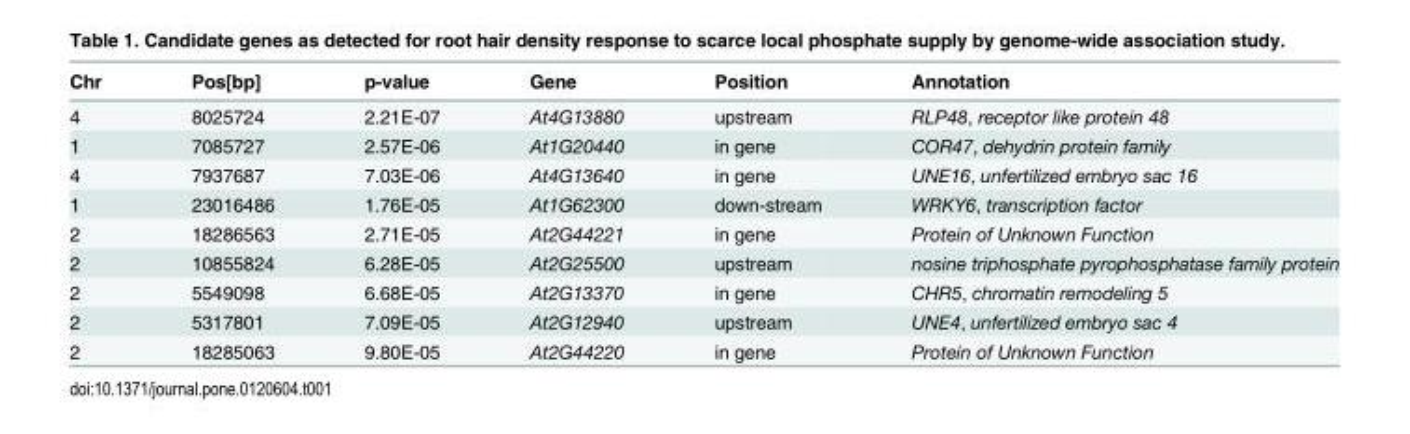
<table><thead><tr><td>Chr</td><td>Pos[bp]</td><td>p-value</td><td>Gene</td><td>Position</td><td>Annotation</td></tr></thead><tbody><tr><td>4</td><td>8025724</td><td>2.21E-07</td><td>At4G13880</td><td>upstream</td><td>RLP48, receptor like protein 48</td></tr><tr><td>1</td><td>7085727</td><td>2.57E-06</td><td>At1G20440</td><td>in gene</td><td>COR47, dehydrin protein family</td></tr><tr><td>4</td><td>7937687</td><td>7.03E-06</td><td>At4G13640</td><td>in gene</td><td>UNE16, unfertilized embryo sac 16</td></tr><tr><td>1</td><td>23016486</td><td>1.76E-05</td><td>At1G62300</td><td>down-stream</td><td>WRKY6, transcription factor</td></tr><tr><td>2</td><td>18286563</td><td>2.71E-05</td><td>At2G44221</td><td>in gene</td><td>Protein of Unknown Function</td></tr><tr><td>2</td><td>10855824</td><td>6.28E-05</td><td>At2G25500</td><td>upstream</td><td>nosine triphosphate pyrophosphatase family protein</td></tr><tr><td>2</td><td>5549098</td><td>6.68E-05</td><td>At2G13370</td><td>in gene</td><td>CHR5, chromatin remodeling 5</td></tr><tr><td>2</td><td>5317801</td><td>7.09E-05</td><td>At2G12940</td><td>upstream</td><td>UNE4, unfertilized embryo sac 4</td></tr><tr><td>2</td><td>18285063</td><td>9.80E-05</td><td>At2G44220</td><td>in gene</td><td>Protein of Unknown Function</td></tr></tbody></table>